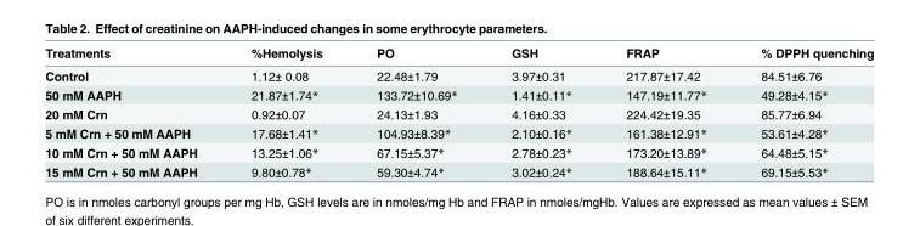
<table><thead><tr><td>Treatments</td><td>%Hemolysis</td><td>PO</td><td>GSH</td><td>FRAP</td><td>% DPPH quenching</td></tr></thead><tbody><tr><td>Control</td><td>1.12± 0.08</td><td>22.48±1.79</td><td>3.97±0.31</td><td>217.87±17.42</td><td>84.51±6.76</td></tr><tr><td>50 mM AAPH</td><td>21.87±1.74*</td><td>133.72±10.69*</td><td>1.41±0.11*</td><td>147.19±11.77*</td><td>49.28±4.15*</td></tr><tr><td>20 mM Crn</td><td>0.92±0.07</td><td>24.13±1.93</td><td>4.16±0.33</td><td>224.42±19.35</td><td>85.77±6.94</td></tr><tr><td>5 mM Crn + 50 mM AAPH</td><td>17.68±1.41*</td><td>104.93±8.39*</td><td>2.10±0.16*</td><td>161.38±12.91*</td><td>53.61±4.28*</td></tr><tr><td>10 mM Crn + 50 mM AAPH</td><td>13.25±1.06*</td><td>67.15±5.37*</td><td>2.78±0.23*</td><td>173.20±13.89*</td><td>64.48±5.15*</td></tr><tr><td>15 mM Crn + 50 mM AAPH</td><td>9.80±0.78*</td><td>59.30±4.74*</td><td>3.02±0.24*</td><td>188.64±15.11*</td><td>69.15±5.53*</td></tr></tbody></table>